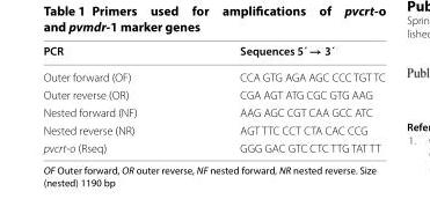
<table><thead><tr><td>PCR</td><td>Sequences 5´ → 3´</td></tr></thead><tbody><tr><td>Outer forward (OF)</td><td>CCA GTG AGA AGC CCC TGT TC</td></tr><tr><td>Outer reverse (OR)</td><td>CGA AGT ATG CGC GTG AAG</td></tr><tr><td>Nested forward (NF)</td><td>AAG AGC CGT CAA GCC ATC</td></tr><tr><td>Nested reverse (NR)</td><td>AGT TTC CCT CTA CAC CCG</td></tr><tr><td>pvcrt-o (Rseq)</td><td>GGG GAC GTC CTC TTG TAT TT</td></tr></tbody></table>